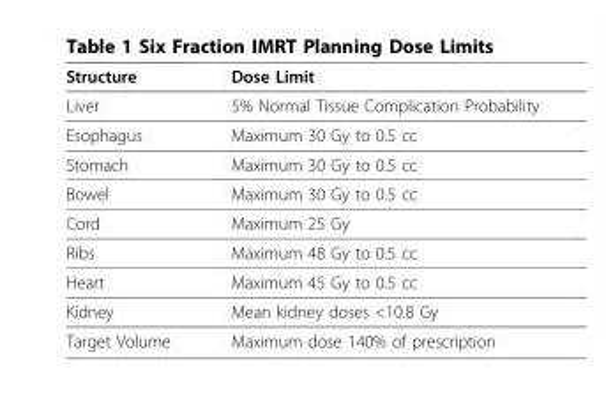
<table><thead><tr><td>Structure</td><td>Dose Limit</td></tr></thead><tbody><tr><td>Liver</td><td>5% Normal Tissue Complication Probability</td></tr><tr><td>Esophagus</td><td>Maximum 30 Gy to 0.5 cc</td></tr><tr><td>Stomach</td><td>Maximum 30 Gy to 0.5 cc</td></tr><tr><td>Bowel</td><td>Maximum 30 Gy to 0.5 cc</td></tr><tr><td>Cord</td><td>Maximum 25 Gy</td></tr><tr><td>Ribs</td><td>Maximum 48 Gy to 0.5 cc</td></tr><tr><td>Heart</td><td>Maximum 45 Gy to 0.5 cc</td></tr><tr><td>Kidney</td><td>Mean kidney doses &lt;10.8 Gy</td></tr><tr><td>Target Volume</td><td>Maximum dose 140% of prescription</td></tr></tbody></table>